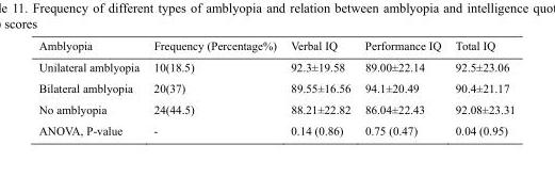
<table><thead><tr><td>Amblyopia</td><td>Frequency (Percentage%)</td><td>Verbal IQ</td><td>Performance IQ</td><td>Total IQ</td></tr></thead><tbody><tr><td>Unilateral amblyopia</td><td>10(18.5)</td><td>92.3±19.58</td><td>89.00±22.14</td><td>92.5±23.06</td></tr><tr><td>Bilateral amblyopia</td><td>20(37)</td><td>89.55±16.56</td><td>94.1±20.49</td><td>90.4±21.17</td></tr><tr><td>No amblyopia</td><td>24(44.5)</td><td>88.21±22.82</td><td>86.04±22.43</td><td>92.08±23.31</td></tr><tr><td>ANOVA, P-value</td><td>-</td><td>0.14 (0.86)</td><td>0.75 (0.47)</td><td>0.04 (0.95)</td></tr></tbody></table>